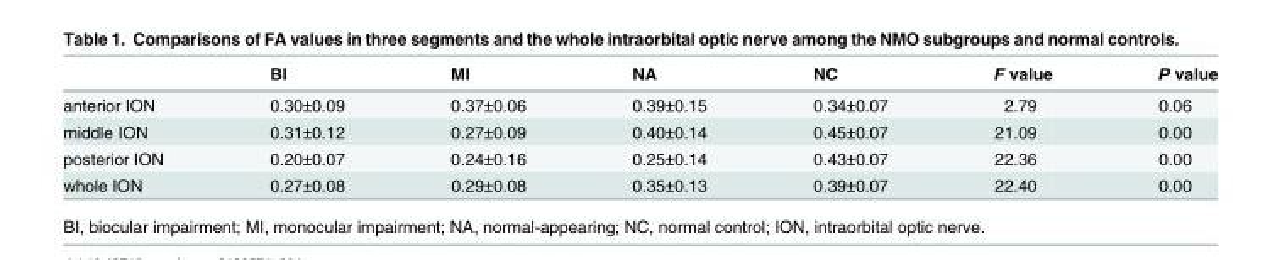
<table><thead><tr><td></td><td>BI</td><td>MI</td><td>NA</td><td>NC</td><td>F value</td><td>P value</td></tr></thead><tbody><tr><td>anterior ION</td><td>0.30±0.09</td><td>0.37±0.06</td><td>0.39±0.15</td><td>0.34±0.07</td><td>2.79</td><td>0.06</td></tr><tr><td>middle ION</td><td>0.31±0.12</td><td>0.27±0.09</td><td>0.40±0.14</td><td>0.45±0.07</td><td>21.09</td><td>0.00</td></tr><tr><td>posterior ION</td><td>0.20±0.07</td><td>0.24±0.16</td><td>0.25±0.14</td><td>0.43±0.07</td><td>22.36</td><td>0.00</td></tr><tr><td>whole ION</td><td>0.27±0.08</td><td>0.29±0.08</td><td>0.35±0.13</td><td>0.39±0.07</td><td>22.40</td><td>0.00</td></tr></tbody></table>